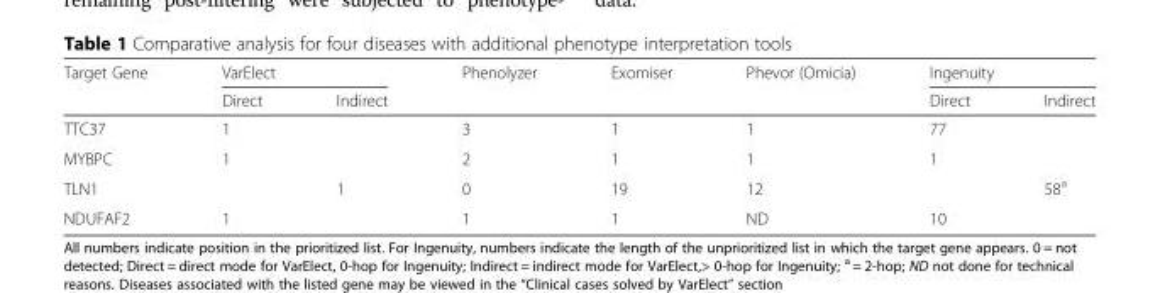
<table><thead><tr><td rowspan="2">Target Gene</td><td colspan="2">VarElect</td><td rowspan="2">Phenolyzer</td><td rowspan="2">Exomiser</td><td rowspan="2">Phevor (Omicia)</td><td colspan="2">Ingenuity</td></tr><tr><td>Direct</td><td>Indirect</td><td>Direct</td><td>Indirect</td></tr></thead><tbody><tr><td>TTC37</td><td>1</td><td></td><td>3</td><td>1</td><td>1</td><td>77</td><td></td></tr><tr><td>MYBPC</td><td>1</td><td></td><td>2</td><td>1</td><td>1</td><td>1</td><td></td></tr><tr><td>TLN1</td><td></td><td>1</td><td>0</td><td>19</td><td>12</td><td></td><td>58<sup>a</sup></td></tr><tr><td>NDUFAF2</td><td>1</td><td></td><td>1</td><td>1</td><td>ND</td><td>10</td><td></td></tr></tbody></table>